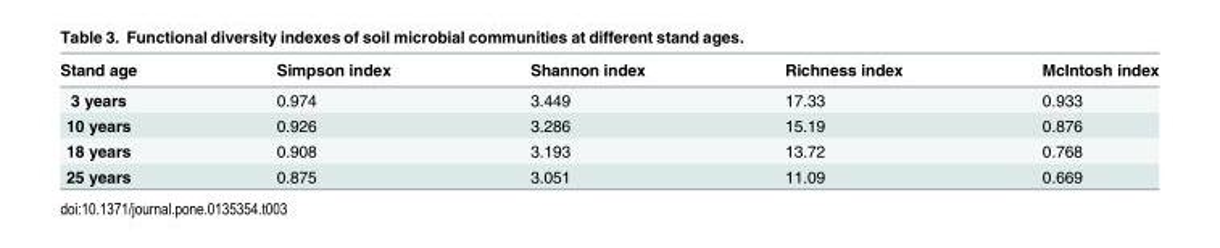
<table><thead><tr><td>Stand age</td><td>Simpson index</td><td>Shannon index</td><td>Richness index</td><td>McIntosh index</td></tr></thead><tbody><tr><td>3 years</td><td>0.974</td><td>3.449</td><td>17.33</td><td>0.933</td></tr><tr><td>10 years</td><td>0.926</td><td>3.286</td><td>15.19</td><td>0.876</td></tr><tr><td>18 years</td><td>0.908</td><td>3.193</td><td>13.72</td><td>0.768</td></tr><tr><td>25 years</td><td>0.875</td><td>3.051</td><td>11.09</td><td>0.669</td></tr></tbody></table>